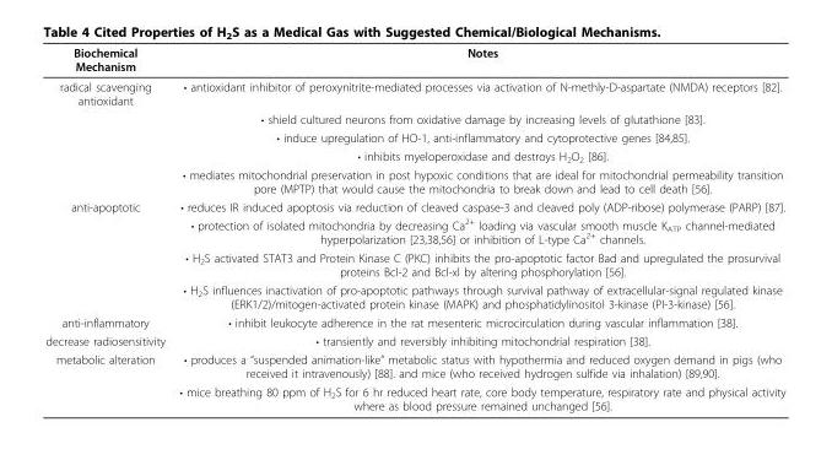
<table><thead><tr><td>Biochemical Mechanism</td><td>Notes</td></tr></thead><tbody><tr><td rowspan="5">radical scavenging antioxidant</td><td>• antioxidant inhibitor of peroxynitrite-mediated processes via activation of N-methly-D-aspartate (NMDA) receptors [82].</td></tr><tr><td>• shield cultured neurons from oxidative damage by increasing levels of glutathione [83].</td></tr><tr><td>• induce upregulation of HO-1, anti-inflammatory and cytoprotective genes [84,85].</td></tr><tr><td>• inhibits myeloperoxidase and destroys H<sub>2</sub>O<sub>2</sub> [86].</td></tr><tr><td>• mediates mitochondrial preservation in post hypoxic conditions that are ideal for mitochondrial permeability transition pore (MPTP) that would cause the mitochondria to break down and lead to cell death [56].</td></tr><tr><td rowspan="4">anti-apoptotic</td><td>• reduces IR induced apoptosis via reduction of cleaved caspase-3 and cleaved poly (ADP-ribose) polymerase (PARP) [87].</td></tr><tr><td>• protection of isolated mitochondria by decreasing Ca<sup>2+</sup> loading via vascular smooth muscle K<sub>ATP</sub> channel-mediated hyperpolarization [23,38,56] or inhibition of L-type Ca<sup>2+</sup> channels.</td></tr><tr><td>• H<sub>2</sub>S activated STAT3 and Protein Kinase C (PKC) inhibits the pro-apoptotic factor Bad and upregulated the prosurvival proteins Bcl-2 and Bcl-xl by altering phosphorylation [56].</td></tr><tr><td>• H<sub>2</sub>S influences inactivation of pro-apoptotic pathways through survival pathway of extracellular-signal regulated kinase (ERK1/2)/mitogen-activated protein kinase (MAPK) and phosphatidylinositol 3-kinase (PI-3-kinase) [56].</td></tr><tr><td>anti-inflammatory</td><td>• inhibit leukocyte adherence in the rat mesenteric microcirculation during vascular inflammation [38].</td></tr><tr><td>decrease radiosensitivity</td><td>• transiently and reversibly inhibiting mitochondrial respiration [38].</td></tr><tr><td rowspan="2">metabolic alteration</td><td>• produces a “suspended animation-like” metabolic status with hypothermia and reduced oxygen demand in pigs (who received it intravenously) [88]. and mice (who received hydrogen sulfide via inhalation) [89,90].</td></tr><tr><td>• mice breathing 80 ppm of H<sub>2</sub>S for 6 hr reduced heart rate, core body temperature, respiratory rate and physical activity where as blood pressure remained unchanged [56].</td></tr></tbody></table>